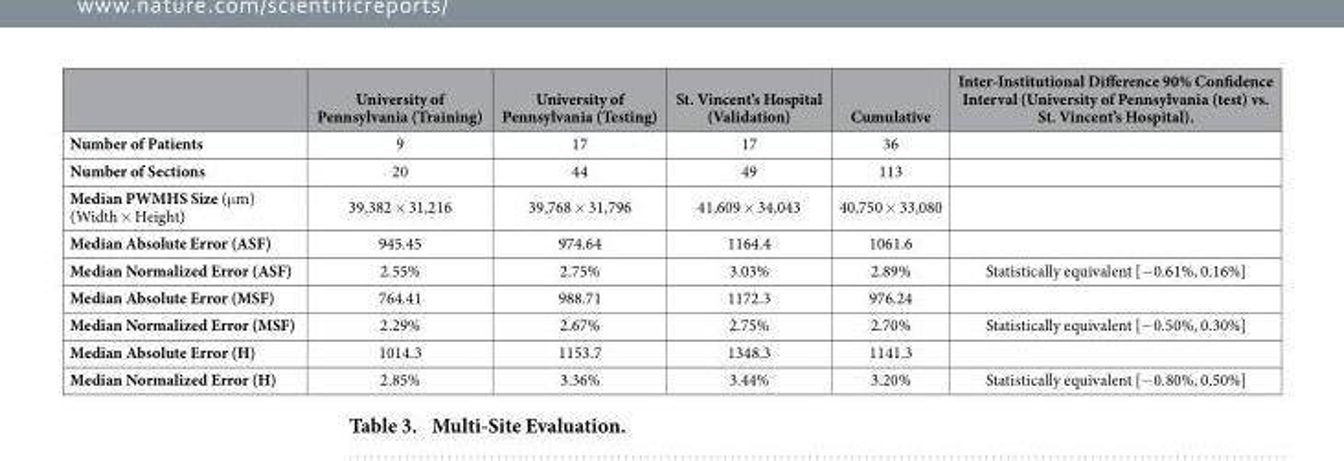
<table><thead><tr><td></td><td>University of Pennsylvania (Training)</td><td>University of Pennsylvania (Testing)</td><td>St. Vincent’s Hospital (Validation)</td><td>Cumulative</td><td>Inter-Institutional Difference 90% Confidence Interval (University of Pennsylvania (test) vs. St. Vincent’s Hospital).</td></tr></thead><tbody><tr><td>Number of Patients</td><td>9</td><td>17</td><td>17</td><td>36</td><td></td></tr><tr><td>Number of Sections</td><td>20</td><td>44</td><td>49</td><td>113</td><td></td></tr><tr><td>Median PWMHS Size (μ m) (Width × Height)</td><td>39,382 × 31,216</td><td>39,768 × 31,796</td><td>41,609 × 34,043</td><td>40,750 × 33,080</td><td></td></tr><tr><td>Median Absolute Error (ASF)</td><td>945.45</td><td>974.64</td><td>1164.4</td><td>1061.6</td><td></td></tr><tr><td>Median Normalized Error (ASF)</td><td>2.55%</td><td>2.75%</td><td>3.03%</td><td>2.89%</td><td>Statistically equivalent [− 0.61%, 0.16%]</td></tr><tr><td>Median Absolute Error (MSF)</td><td>764.41</td><td>988.71</td><td>1172.3</td><td>976.24</td><td></td></tr><tr><td>Median Normalized Error (MSF)</td><td>2.29%</td><td>2.67%</td><td>2.75%</td><td>2.70%</td><td>Statistically equivalent [− 0.50%, 0.30%]</td></tr><tr><td>Median Absolute Error (H)</td><td>1014.3</td><td>1153.7</td><td>1348.3</td><td>1141.3</td><td></td></tr><tr><td>Median Normalized Error (H)</td><td>2.85%</td><td>3.36%</td><td>3.44%</td><td>3.20%</td><td>Statistically equivalent [− 0.80%, 0.50%]</td></tr></tbody></table>